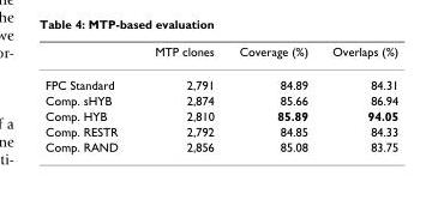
<table><thead><tr><td></td><td>MTP clones</td><td>Coverage (%)</td><td>Overlaps (%)</td></tr></thead><tbody><tr><td>FPC Standard</td><td>2,791</td><td>84.89</td><td>84.31</td></tr><tr><td>Comp. sHYB</td><td>2,874</td><td>85.66</td><td>86.94</td></tr><tr><td>Comp. HYB</td><td>2,810</td><td>85.89</td><td>94.05</td></tr><tr><td>Comp. RESTR</td><td>2,792</td><td>84.85</td><td>84.33</td></tr><tr><td>Comp. RAND</td><td>2,856</td><td>85.08</td><td>83.75</td></tr></tbody></table>